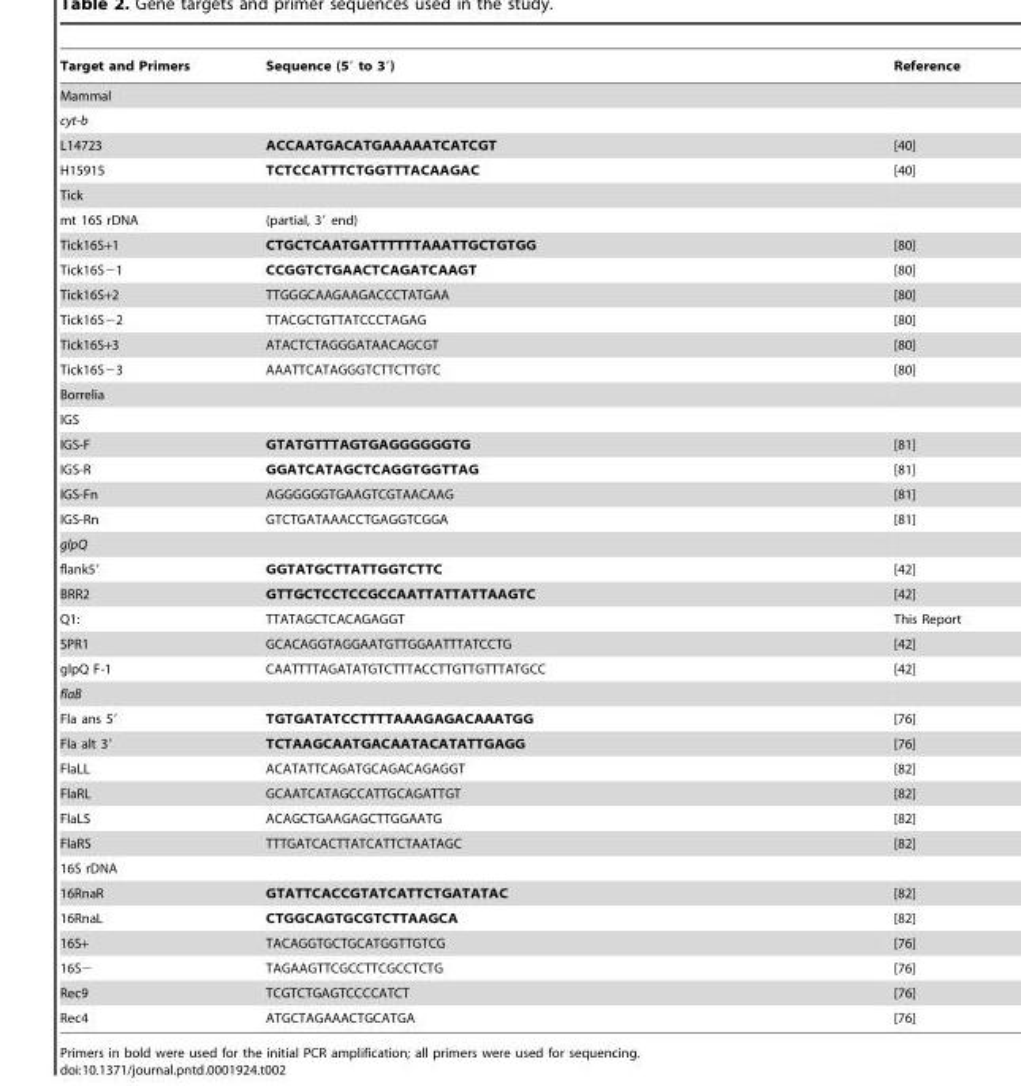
<table><thead><tr><td>Target and Primers</td><td>Sequence (5′ to 3′)</td><td>Reference</td></tr></thead><tbody><tr><td colspan="3">Mammal</td></tr><tr><td colspan="3">cyt-b</td></tr><tr><td>L14723</td><td>ACCAATGACATGAAAAATCATCGT</td><td>[40]</td></tr><tr><td>H15915</td><td>TCTCCATTTCTGGTTTACAAGAC</td><td>[40]</td></tr><tr><td colspan="3">Tick</td></tr><tr><td>mt 16S rDNA</td><td>(partial, 3′ end)</td><td></td></tr><tr><td>Tick16S+1</td><td>CTGCTCAATGATTTTTTAAATTGCTGTGG</td><td>[80]</td></tr><tr><td>Tick16S−1</td><td>CCGGTCTGAACTCAGATCAAGT</td><td>[80]</td></tr><tr><td>Tick16S+2</td><td>TTGGGCAAGAAGACCCTATGAA</td><td>[80]</td></tr><tr><td>Tick16S−2</td><td>TTACGCTGTTATCCCTAGAG</td><td>[80]</td></tr><tr><td>Tick16S+3</td><td>ATACTCTAGGGATAACAGCGT</td><td>[80]</td></tr><tr><td>Tick16S−3</td><td>AAATTCATAGGGTCTTCTTGTC</td><td>[80]</td></tr><tr><td colspan="3">Borrelia</td></tr><tr><td colspan="3">IGS</td></tr><tr><td>IGS-F</td><td>GTATGTTTAGTGAGGGGGGTG</td><td>[81]</td></tr><tr><td>IGS-R</td><td>GGATCATAGCTCAGGTGGTTAG</td><td>[81]</td></tr><tr><td>IGS-Fn</td><td>AGGGGGGTGAAGTCGTAACAAG</td><td>[81]</td></tr><tr><td>IGS-Rn</td><td>GTCTGATAAACCTGAGGTCGGA</td><td>[81]</td></tr><tr><td colspan="3">glpQ</td></tr><tr><td>flank5′</td><td>GGTATGCTTATTGGTCTTC</td><td>[42]</td></tr><tr><td>BRR2</td><td>GTTGCTCCTCCGCCAATTATTATTAAGTC</td><td>[42]</td></tr><tr><td>Q1:</td><td>TTATAGCTCACAGAGGT</td><td>This Report</td></tr><tr><td>SPR1</td><td>GCACAGGTAGGAATGTTGGAATTTATCCTG</td><td>[42]</td></tr><tr><td>glpQ F-1</td><td>CAATTTTAGATATGTCTTTACCTTGTTGTTTATGCC</td><td>[42]</td></tr><tr><td colspan="3">flaB</td></tr><tr><td>Fla ans 5′</td><td>TGTGATATCCTTTTAAAGAGACAAATGG</td><td>[76]</td></tr><tr><td>Fla alt 3′</td><td>TCTAAGCAATGACAATACATATTGAGG</td><td>[76]</td></tr><tr><td>FlaLL</td><td>ACATATTCAGATGCAGACAGAGGT</td><td>[82]</td></tr><tr><td>FlaRL</td><td>GCAATCATAGCCATTGCAGATTGT</td><td>[82]</td></tr><tr><td>FlaLS</td><td>ACAGCTGAAGAGCTTGGAATG</td><td>[82]</td></tr><tr><td>FlaRS</td><td>TTTGATCACTTATCATTCTAATAGC</td><td>[82]</td></tr><tr><td colspan="3">16S rDNA</td></tr><tr><td>16RnaR</td><td>GTATTCACCGTATCATTCTGATATAC</td><td>[82]</td></tr><tr><td>16RnaL</td><td>CTGGCAGTGCGTCTTAAGCA</td><td>[82]</td></tr><tr><td>16S+</td><td>TACAGGTGCTGCATGGTTGTCG</td><td>[76]</td></tr><tr><td>16S−</td><td>TAGAAGTTCGCCTTCGCCTCTG</td><td>[76]</td></tr><tr><td>Rec9</td><td>TCGTCTGAGTCCCCATCT</td><td>[76]</td></tr><tr><td>Rec4</td><td>ATGCTAGAAACTGCATGA</td><td>[76]</td></tr></tbody></table>